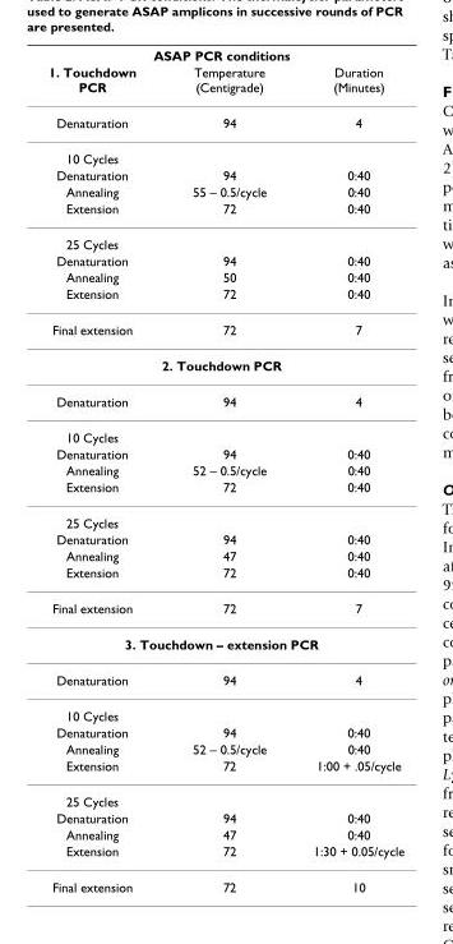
<table><thead><tr><td colspan="3">ASAP PCR conditions</td></tr><tr><td>1. Touchdown PCR</td><td>Temperature (Centigrade)</td><td>Duration (Minutes)</td></tr></thead><tbody><tr><td>Denaturation</td><td>94</td><td>4</td></tr><tr><td colspan="3">10 Cycles</td></tr><tr><td>Denaturation</td><td>94</td><td>0:40</td></tr><tr><td>Annealing</td><td>55 – 0.5/cycle</td><td>0:40</td></tr><tr><td>Extension</td><td>72</td><td>0:40</td></tr><tr><td colspan="3">25 Cycles</td></tr><tr><td>Denaturation</td><td>94</td><td>0:40</td></tr><tr><td>Annealing</td><td>50</td><td>0:40</td></tr><tr><td>Extension</td><td>72</td><td>0:40</td></tr><tr><td>Final extension</td><td>72</td><td>7</td></tr><tr><td colspan="3">2. Touchdown PCR</td></tr><tr><td>Denaturation</td><td>94</td><td>4</td></tr><tr><td colspan="3">10 Cycles</td></tr><tr><td>Denaturation</td><td>94</td><td>0:40</td></tr><tr><td>Annealing</td><td>52 – 0.5/cycle</td><td>0:40</td></tr><tr><td>Extension</td><td>72</td><td>0:40</td></tr><tr><td colspan="3">25 Cycles</td></tr><tr><td>Denaturation</td><td>94</td><td>0:40</td></tr><tr><td>Annealing</td><td>47</td><td>0:40</td></tr><tr><td>Extension</td><td>72</td><td>0:40</td></tr><tr><td>Final extension</td><td>72</td><td>7</td></tr><tr><td colspan="3">3. Touchdown – extension PCR</td></tr><tr><td>Denaturation</td><td>94</td><td>4</td></tr><tr><td colspan="3">10 Cycles</td></tr><tr><td>Denaturation</td><td>94</td><td>0:40</td></tr><tr><td>Annealing</td><td>52 – 0.5/cycle</td><td>0:40</td></tr><tr><td>Extension</td><td>72</td><td>1:00 + .05/cycle</td></tr><tr><td colspan="3">25 Cycles</td></tr><tr><td>Denaturation</td><td>94</td><td>0:40</td></tr><tr><td>Annealing</td><td>47</td><td>0:40</td></tr><tr><td>Extension</td><td>72</td><td>1:30 + 0.05/cycle</td></tr><tr><td>Final extension</td><td>72</td><td>10</td></tr></tbody></table>